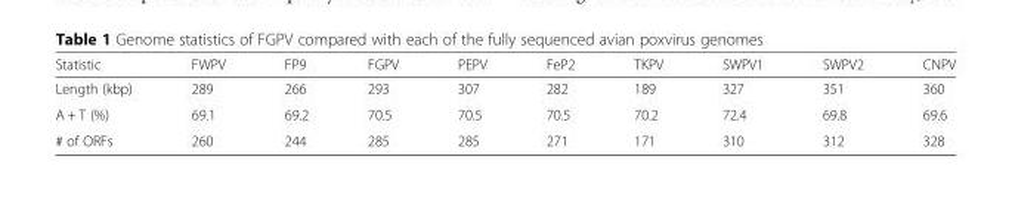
<table><thead><tr><td>Statistic</td><td>FWPV</td><td>FP9</td><td>FGPV</td><td>PEPV</td><td>FeP2</td><td>TKPV</td><td>SWPV1</td><td>SWPV2</td><td>CNPV</td></tr></thead><tbody><tr><td>Length (kbp)</td><td>289</td><td>266</td><td>293</td><td>307</td><td>282</td><td>189</td><td>327</td><td>351</td><td>360</td></tr><tr><td>A + T (%)</td><td>69.1</td><td>69.2</td><td>70.5</td><td>70.5</td><td>70.5</td><td>70.2</td><td>72.4</td><td>69.8</td><td>69.6</td></tr><tr><td># of ORFs</td><td>260</td><td>244</td><td>285</td><td>285</td><td>271</td><td>171</td><td>310</td><td>312</td><td>328</td></tr></tbody></table>